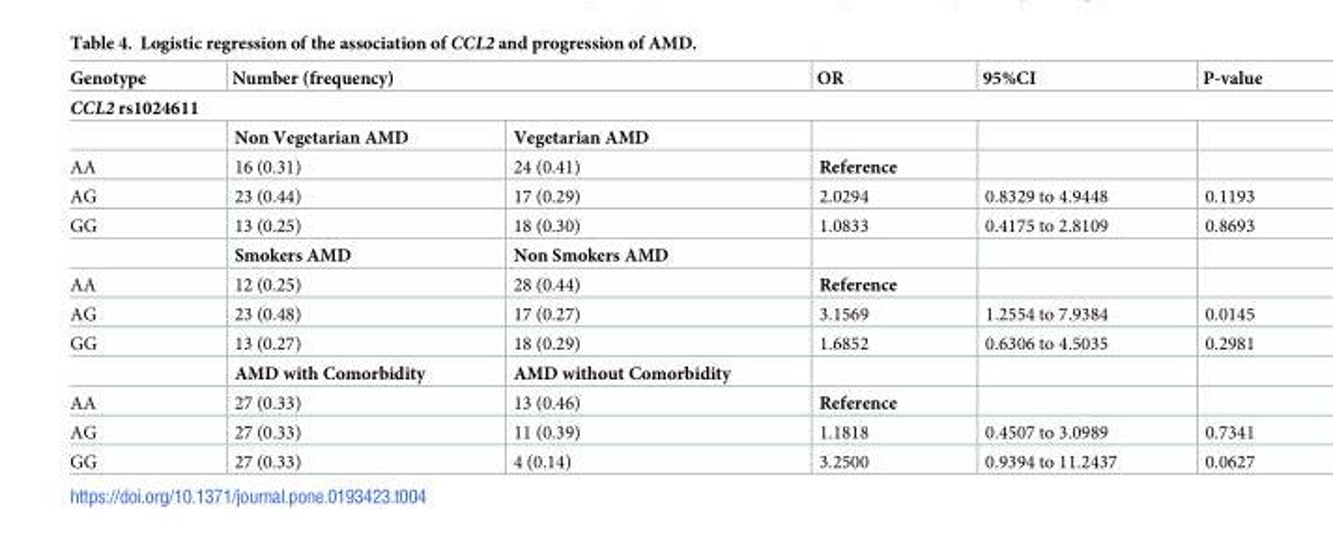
<table><thead><tr><td>Genotype</td><td colspan="2">Number (frequency)</td><td>OR</td><td>95%CI</td><td>P-value</td></tr><tr><td colspan="6">CCL2 rs1024611</td></tr><tr><td></td><td>Non Vegetarian AMD</td><td>Vegetarian AMD</td><td></td><td></td><td></td></tr></thead><tbody><tr><td>AA</td><td>16 (0.31)</td><td>24 (0.41)</td><td>Reference</td><td></td><td></td></tr><tr><td>AG</td><td>23 (0.44)</td><td>17 (0.29)</td><td>2.0294</td><td>0.8329 to 4.9448</td><td>0.1193</td></tr><tr><td rowspan="2">GG</td><td>13 (0.25)</td><td>18 (0.30)</td><td>1.0833</td><td>0.4175 to 2.8109</td><td>0.8693</td></tr><tr><td>Smokers AMD</td><td>Non Smokers AMD</td><td></td><td></td><td></td></tr><tr><td>AA</td><td>12 (0.25)</td><td>28 (0.44)</td><td>Reference</td><td></td><td></td></tr><tr><td>AG</td><td>23 (0.48)</td><td>17 (0.27)</td><td>3.1569</td><td>1.2554 to 7.9384</td><td>0.0145</td></tr><tr><td rowspan="2">GG</td><td>13 (0.27)</td><td>18 (0.29)</td><td>1.6852</td><td>0.6306 to 4.5035</td><td>0.2981</td></tr><tr><td>AMD with Comorbidity</td><td>AMD without Comorbidity</td><td></td><td></td><td></td></tr><tr><td>AA</td><td>27 (0.33)</td><td>13 (0.46)</td><td>Reference</td><td></td><td></td></tr><tr><td>AG</td><td>27 (0.33)</td><td>11 (0.39)</td><td>1.1818</td><td>0.4507 to 3.0989</td><td>0.7341</td></tr><tr><td>GG</td><td>27 (0.33)</td><td>4 (0.14)</td><td>3.2500</td><td>0.9394 to 11.2437</td><td>0.0627</td></tr></tbody></table>